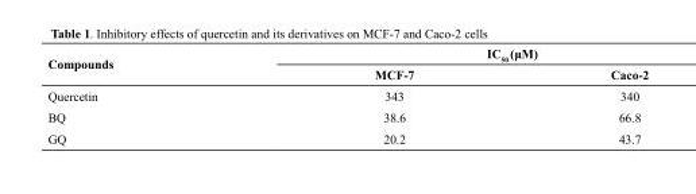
<table><thead><tr><td rowspan="2">Compounds</td><td colspan="2">IC<sub>50</sub> (μM)</td></tr><tr><td>MCF-7</td><td>Caco-2</td></tr></thead><tbody><tr><td>Quercetin</td><td>343</td><td>340</td></tr><tr><td>BQ</td><td>38.6</td><td>66.8</td></tr><tr><td>GQ</td><td>20.2</td><td>43.7</td></tr></tbody></table>